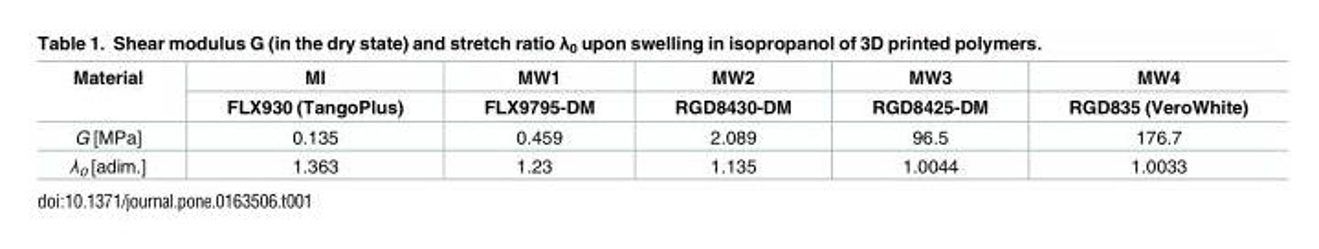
<table><thead><tr><td rowspan="2">Material</td><td rowspan="2">MI FLX930 (TangoPlus)</td><td rowspan="2">MW1 FLX9795-DM</td><td rowspan="2">MW2 RGD8430-DM</td><td rowspan="2">MW3 RGD8425-DM</td><td rowspan="2">MW4 RGD835 (VeroWhite)</td></tr><tr></tr></thead><tbody><tr><td>G [MPa]</td><td>0.135</td><td>0.459</td><td>2.089</td><td>96.5</td><td>176.7</td></tr><tr><td>λ<sub>0</sub> [adim.]</td><td>1.363</td><td>1.23</td><td>1.135</td><td>1.0044</td><td>1.0033</td></tr></tbody></table>